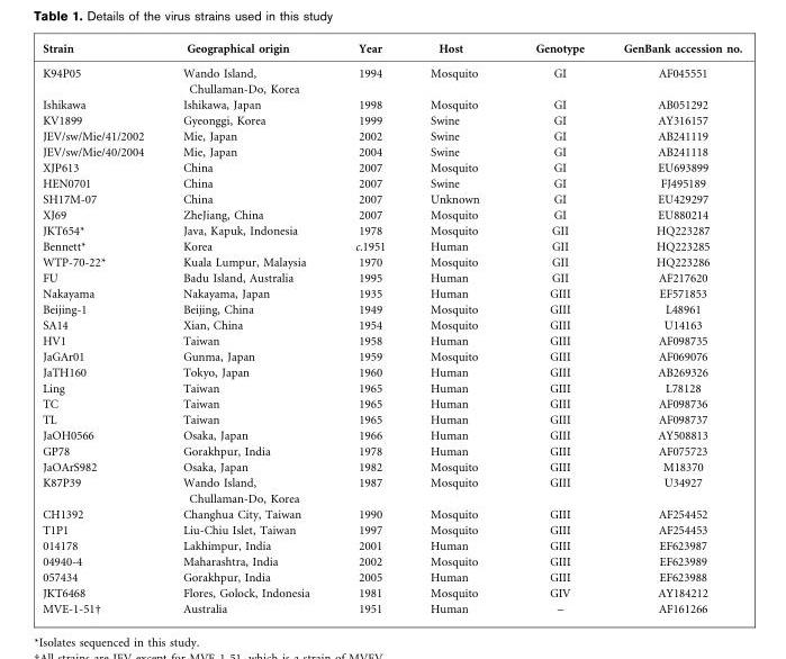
<table><thead><tr><td>Strain</td><td>Geographical origin</td><td>Year</td><td>Host</td><td>Genotype</td><td>GenBank accession no.</td></tr></thead><tbody><tr><td>K94P05</td><td>Wando Island, Chullaman-Do, Korea</td><td>1994</td><td>Mosquito</td><td>GI</td><td>AF045551</td></tr><tr><td>Ishikawa</td><td>Ishikawa, Japan</td><td>1998</td><td>Mosquito</td><td>GI</td><td>AB051292</td></tr><tr><td>KV1899</td><td>Gyeonggi, Korea</td><td>1999</td><td>Swine</td><td>GI</td><td>AY316157</td></tr><tr><td>JEV/sw/Mie/41/2002</td><td>Mie, Japan</td><td>2002</td><td>Swine</td><td>GI</td><td>AB241119</td></tr><tr><td>JEV/sw/Mie/40/2004</td><td>Mie, Japan</td><td>2004</td><td>Swine</td><td>GI</td><td>AB241118</td></tr><tr><td>XJP613</td><td>China</td><td>2007</td><td>Mosquito</td><td>GI</td><td>EU693899</td></tr><tr><td>HEN0701</td><td>China</td><td>2007</td><td>Swine</td><td>GI</td><td>FJ495189</td></tr><tr><td>SH17M-07</td><td>China</td><td>2007</td><td>Unknown</td><td>GI</td><td>EU429297</td></tr><tr><td>XJ69</td><td>ZheJiang, China</td><td>2007</td><td>Mosquito</td><td>GI</td><td>EU880214</td></tr><tr><td>JKT654*</td><td>Java, Kapuk, Indonesia</td><td>1978</td><td>Mosquito</td><td>GII</td><td>HQ223287</td></tr><tr><td>Bennett*</td><td>Korea</td><td>c.1951</td><td>Human</td><td>GII</td><td>HQ223285</td></tr><tr><td>WTP-70-22*</td><td>Kuala Lumpur, Malaysia</td><td>1970</td><td>Mosquito</td><td>GII</td><td>HQ223286</td></tr><tr><td>FU</td><td>Badu Island, Australia</td><td>1995</td><td>Human</td><td>GII</td><td>AF217620</td></tr><tr><td>Nakayama</td><td>Nakayama, Japan</td><td>1935</td><td>Human</td><td>GIII</td><td>EF571853</td></tr><tr><td>Beijing-1</td><td>Beijing, China</td><td>1949</td><td>Mosquito</td><td>GIII</td><td>L48961</td></tr><tr><td>SA14</td><td>Xian, China</td><td>1954</td><td>Mosquito</td><td>GIII</td><td>U14163</td></tr><tr><td>HV1</td><td>Taiwan</td><td>1958</td><td>Human</td><td>GIII</td><td>AF098735</td></tr><tr><td>JaGAr01</td><td>Gunma, Japan</td><td>1959</td><td>Mosquito</td><td>GIII</td><td>AF069076</td></tr><tr><td>JaTH160</td><td>Tokyo, Japan</td><td>1960</td><td>Human</td><td>GIII</td><td>AB269326</td></tr><tr><td>Ling</td><td>Taiwan</td><td>1965</td><td>Human</td><td>GIII</td><td>L78128</td></tr><tr><td>TC</td><td>Taiwan</td><td>1965</td><td>Human</td><td>GIII</td><td>AF098736</td></tr><tr><td>TL</td><td>Taiwan</td><td>1965</td><td>Human</td><td>GIII</td><td>AF098737</td></tr><tr><td>JaOH0566</td><td>Osaka, Japan</td><td>1966</td><td>Human</td><td>GIII</td><td>AY508813</td></tr><tr><td>GP78</td><td>Gorakhpur, India</td><td>1978</td><td>Human</td><td>GIII</td><td>AF075723</td></tr><tr><td>JaOArS982</td><td>Osaka, Japan</td><td>1982</td><td>Mosquito</td><td>GIII</td><td>M18370</td></tr><tr><td>K87P39</td><td>Wando Island, Chullaman-Do, Korea</td><td>1987</td><td>Mosquito</td><td>GIII</td><td>U34927</td></tr><tr><td>CH1392</td><td>Changhua City, Taiwan</td><td>1990</td><td>Mosquito</td><td>GIII</td><td>AF254452</td></tr><tr><td>T1P1</td><td>Liu-Chiu Islet, Taiwan</td><td>1997</td><td>Mosquito</td><td>GIII</td><td>AF254453</td></tr><tr><td>014178</td><td>Lakhimpur, India</td><td>2001</td><td>Human</td><td>GIII</td><td>EF623987</td></tr><tr><td>04940-4</td><td>Maharashtra, India</td><td>2002</td><td>Mosquito</td><td>GIII</td><td>EF623989</td></tr><tr><td>057434</td><td>Gorakhpur, India</td><td>2005</td><td>Human</td><td>GIII</td><td>EF623988</td></tr><tr><td>JKT6468</td><td>Flores, Golock, Indonesia</td><td>1981</td><td>Mosquito</td><td>GIV</td><td>AY184212</td></tr><tr><td>MVE-1-51†</td><td>Australia</td><td>1951</td><td>Human</td><td>–</td><td>AF161266</td></tr></tbody></table>